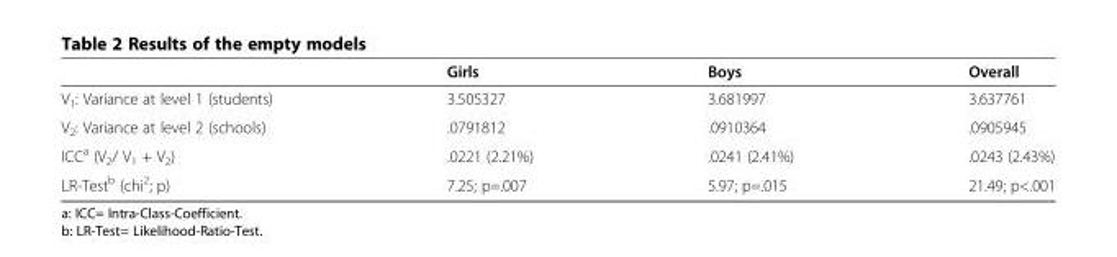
<table><thead><tr><td></td><td>Girls</td><td>Boys</td><td>Overall</td></tr></thead><tbody><tr><td>V<sub>1</sub>: Variance at level 1 (students)</td><td>3.505327</td><td>3.681997</td><td>3.637761</td></tr><tr><td>V<sub>2</sub>: Variance at level 2 (schools)</td><td>.0791812</td><td>.0910364</td><td>.0905945</td></tr><tr><td>ICC<sup>a</sup> (V<sub>2</sub>/ V<sub>1</sub> + V<sub>2</sub>)</td><td>.0221 (2.21%)</td><td>.0241 (2.41%)</td><td>.0243 (2.43%)</td></tr><tr><td>LR-Test<sup>b</sup> (chi<sup>2</sup>; p)</td><td>7.25; p=.007</td><td>5.97; p=.015</td><td>21.49; p&lt;.001</td></tr></tbody></table>